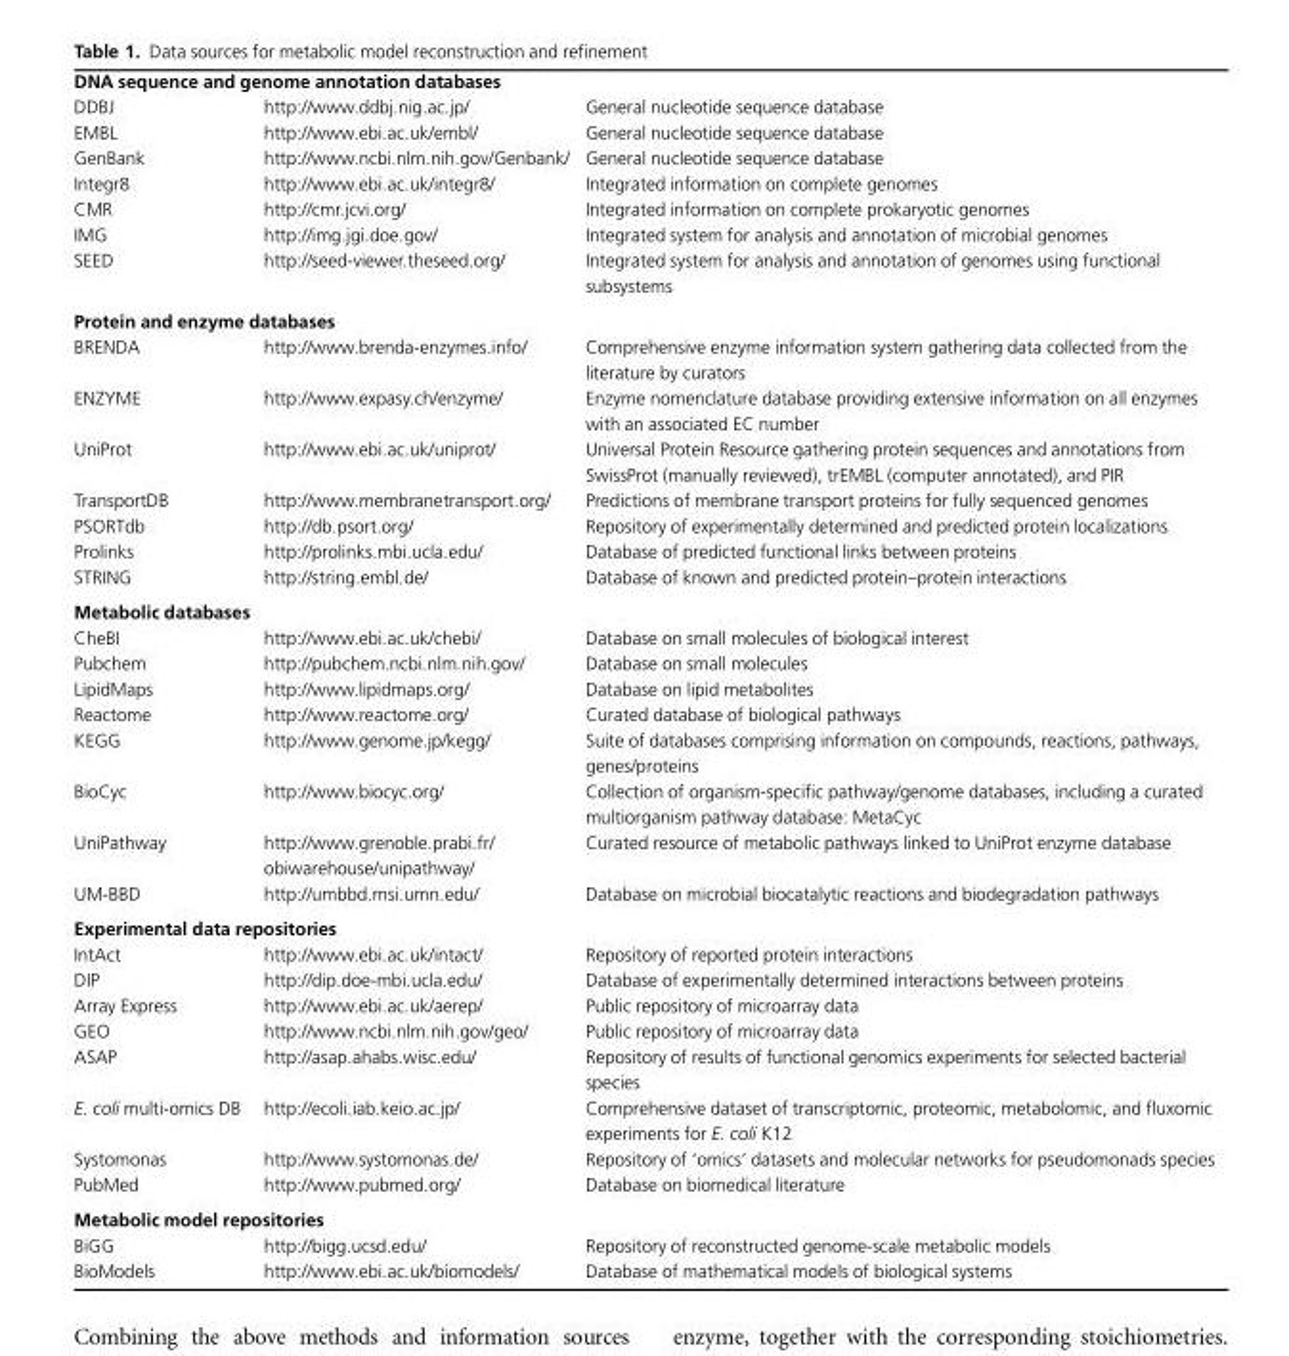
<table><tbody><tr><td colspan="3">DNA sequence and genome annotation databases</td></tr><tr><td>DDBJ</td><td>http://www.ddbj.nig.ac.jp/</td><td>General nucleotide sequence database</td></tr><tr><td>EMBL</td><td>http://www.ebi.ac.uk/embl/</td><td>General nucleotide sequence database</td></tr><tr><td>GenBank</td><td>http://www.ncbi.nlm.nih.gov/Genbank/</td><td>General nucleotide sequence database</td></tr><tr><td>Integr8</td><td>http://www.ebi.ac.uk/integr8/</td><td>Integrated information on complete genomes</td></tr><tr><td>CMR</td><td>http://cmr.jcvi.org/</td><td>Integrated information on complete prokaryotic genomes</td></tr><tr><td>IMG</td><td>http://img.jgi.doe.gov/</td><td>Integrated system for analysis and annotation of microbial genomes</td></tr><tr><td>SEED</td><td>http://seed-viewer.theseed.org/</td><td>Integrated system for analysis and annotation of genomes using functional subsystems</td></tr><tr><td colspan="3">Protein and enzyme databases</td></tr><tr><td>BRENDA</td><td>http://www.brenda-enzymes.info/</td><td>Comprehensive enzyme information system gathering data collected from the literature by curators</td></tr><tr><td>ENZYME</td><td>http://www.expasy.ch/enzyme/</td><td>Enzyme nomenclature database providing extensive information on all enzymes with an associated EC number</td></tr><tr><td>UniProt</td><td>http://www.ebi.ac.uk/uniprot/</td><td>Universal Protein Resource gathering protein sequences and annotations from SwissProt (manually reviewed), trEMBL (computer annotated), and PIR</td></tr><tr><td>TransportDB</td><td>http://www.membranetransport.org/</td><td>Predictions of membrane transport proteins for fully sequenced genomes</td></tr><tr><td>PSORTdb</td><td>http://db.psort.org/</td><td>Repository of experimentally determined and predicted protein localizations</td></tr><tr><td>Prolinks</td><td>http://prolinks.mbi.ucla.edu/</td><td>Database of predicted functional links between proteins</td></tr><tr><td>STRING</td><td>http://string.embl.de/</td><td>Database of known and predicted protein–protein interactions</td></tr><tr><td colspan="3">Metabolic databases</td></tr><tr><td>CheBI</td><td>http://www.ebi.ac.uk/chebi/</td><td>Database on small molecules of biological interest</td></tr><tr><td>Pubchem</td><td>http://pubchem.ncbi.nlm.nih.gov/</td><td>Database on small molecules</td></tr><tr><td>LipidMaps</td><td>http://www.lipidmaps.org/</td><td>Database on lipid metabolites</td></tr><tr><td>Reactome</td><td>http://www.reactome.org/</td><td>Curated database of biological pathways</td></tr><tr><td>KEGG</td><td>http://www.genome.jp/kegg/</td><td>Suite of databases comprising information on compounds, reactions, pathways, genes/proteins</td></tr><tr><td>BioCyc</td><td>http://www.biocyc.org/</td><td>Collection of organism-specific pathway/genome databases, including a curated multiorganism pathway database: MetaCyc</td></tr><tr><td>UniPathway</td><td>http://www.grenoble.prabi.fr/ obiwarehouse/unipathway/</td><td>Curated resource of metabolic pathways linked to UniProt enzyme database</td></tr><tr><td>UM-BBD</td><td>http://umbbd.msi.umn.edu/</td><td>Database on microbial biocatalytic reactions and biodegradation pathways</td></tr><tr><td colspan="3">Experimental data repositories</td></tr><tr><td>IntAct</td><td>http://www.ebi.ac.uk/intact/</td><td>Repository of reported protein interactions</td></tr><tr><td>DIP</td><td>http://dip.doe-mbi.ucla.edu/</td><td>Database of experimentally determined interactions between proteins</td></tr><tr><td>Array Express</td><td>http://www.ebi.ac.uk/aerep/</td><td>Public repository of microarray data</td></tr><tr><td>GEO</td><td>http://www.ncbi.nlm.nih.gov/geo/</td><td>Public repository of microarray data</td></tr><tr><td>ASAP</td><td>http://asap.ahabs.wisc.edu/</td><td>Repository of results of functional genomics experiments for selected bacterial species</td></tr><tr><td>E. coli multi-omics DB</td><td>http://ecoli.iab.keio.ac.jp/</td><td>Comprehensive dataset of transcriptomic, proteomic, metabolomic, and fluxomic experiments for E. coli K12</td></tr><tr><td>Systomonas</td><td>http://www.systomonas.de/</td><td>Repository of ‘omics’ datasets and molecular networks for pseudomonads species</td></tr><tr><td>PubMed</td><td>http://www.pubmed.org/</td><td>Database on biomedical literature</td></tr><tr><td colspan="3">Metabolic model repositories</td></tr><tr><td>BiGG</td><td>http://bigg.ucsd.edu/</td><td>Repository of reconstructed genome-scale metabolic models</td></tr><tr><td>BioModels</td><td>http://www.ebi.ac.uk/biomodels/</td><td>Database of mathematical models of biological systems</td></tr></tbody></table>